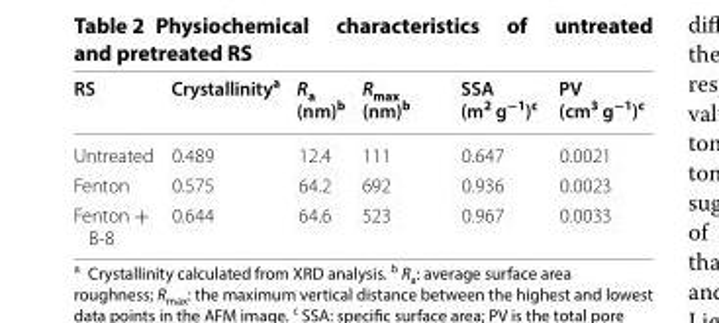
<table><thead><tr><td>RS</td><td>Crystallinity<sup>a</sup></td><td>R<sub>a</sub> (nm)<sup>b</sup></td><td>R<sub>max</sub> (nm)<sup>b</sup></td><td>SSA (m<sup>2</sup> g<sup>−1</sup>)<sup>c</sup></td><td>PV (cm<sup>3</sup> g<sup>−1</sup>)<sup>c</sup></td></tr></thead><tbody><tr><td>Untreated</td><td>0.489</td><td>12.4</td><td>111</td><td>0.647</td><td>0.0021</td></tr><tr><td>Fenton</td><td>0.575</td><td>64.2</td><td>692</td><td>0.936</td><td>0.0023</td></tr><tr><td>Fenton + B-8</td><td>0.644</td><td>64.6</td><td>523</td><td>0.967</td><td>0.0033</td></tr></tbody></table>